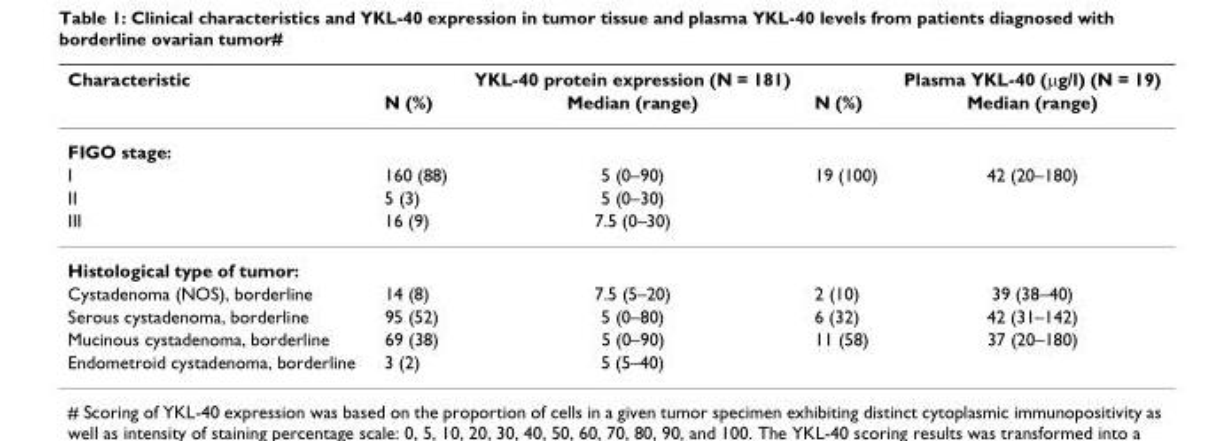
<table><thead><tr><td rowspan="2">Characteristic</td><td rowspan="2">N (%)</td><td rowspan="2">YKL-40 protein expression (N = 181) Median (range)</td><td rowspan="2">N (%)</td><td rowspan="2">Plasma YKL-40 (μg/l) (N = 19) Median (range)</td></tr><tr></tr></thead><tbody><tr><td colspan="5">FIGO stage:</td></tr><tr><td>I</td><td>160 (88)</td><td>5 (0–90)</td><td>19 (100)</td><td>42 (20–180)</td></tr><tr><td>II</td><td>5 (3)</td><td>5 (0–30)</td><td></td><td></td></tr><tr><td>III</td><td>16 (9)</td><td>7.5 (0–30)</td><td></td><td></td></tr><tr><td colspan="5">Histological type of tumor:</td></tr><tr><td>Cystadenoma (NOS), borderline</td><td>14 (8)</td><td>7.5 (5–20)</td><td>2 (10)</td><td>39 (38–40)</td></tr><tr><td>Serous cystadenoma, borderline</td><td>95 (52)</td><td>5 (0–80)</td><td>6 (32)</td><td>42 (31–142)</td></tr><tr><td>Mucinous cystadenoma, borderline</td><td>69 (38)</td><td>5 (0–90)</td><td>11 (58)</td><td>37 (20–180)</td></tr><tr><td>Endometroid cystadenoma, borderline</td><td>3 (2)</td><td>5 (5–40)</td><td></td><td></td></tr></tbody></table>